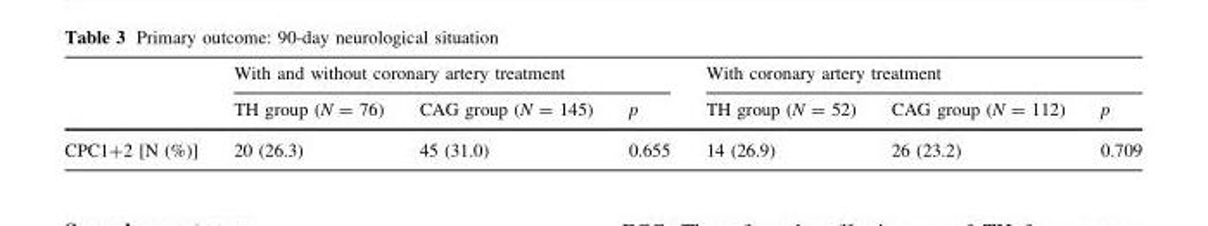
<table><thead><tr><td rowspan="2"></td><td colspan="3">With and without coronary artery treatment</td><td colspan="3">With coronary artery treatment</td></tr><tr><td>TH group (N = 76)</td><td>CAG group (N = 145)</td><td>p</td><td>TH group (N = 52)</td><td>CAG group (N = 112)</td><td>p</td></tr></thead><tbody><tr><td>CPC1+2 [N (%)]</td><td>20 (26.3)</td><td>45 (31.0)</td><td>0.655</td><td>14 (26.9)</td><td>26 (23.2)</td><td>0.709</td></tr></tbody></table>